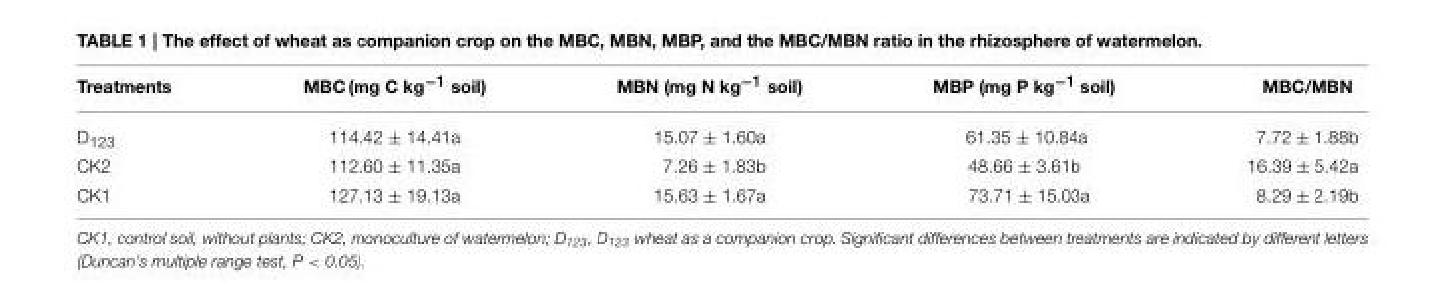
<table><thead><tr><td>Treatments</td><td>MBC (mg C kg<sup>−1</sup> soil)</td><td>MBN (mg N kg<sup>−1</sup> soil)</td><td>MBP (mg P kg<sup>−1</sup> soil)</td><td>MBC/MBN</td></tr></thead><tbody><tr><td>D<sub>123</sub></td><td>114.42 ± 14.41a</td><td>15.07 ± 1.60a</td><td>61.35 ± 10.84a</td><td>7.72 ± 1.88b</td></tr><tr><td>CK2</td><td>112.60 ± 11.35a</td><td>7.26 ± 1.83b</td><td>48.66 ± 3.61b</td><td>16.39 ± 5.42a</td></tr><tr><td>CK1</td><td>127.13 ± 19.13a</td><td>15.63 ± 1.67a</td><td>73.71 ± 15.03a</td><td>8.29 ± 2.19b</td></tr></tbody></table>